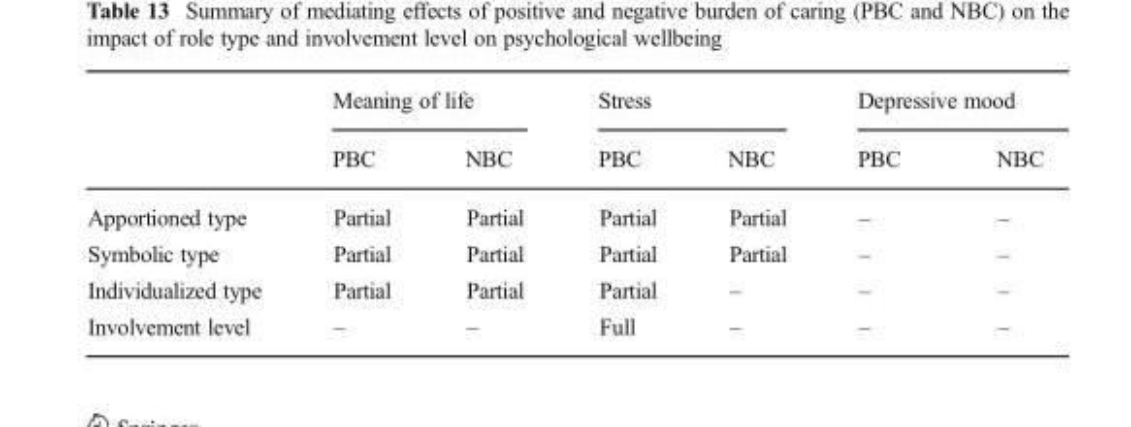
<table><thead><tr><td rowspan="2"></td><td colspan="2">Meaning of life</td><td colspan="2">Stress</td><td colspan="2">Depressive mood</td></tr><tr><td>PBC</td><td>NBC</td><td>PBC</td><td>NBC</td><td>PBC</td><td>NBC</td></tr></thead><tbody><tr><td>Apportioned type</td><td>Partial</td><td>Partial</td><td>Partial</td><td>Partial</td><td>–</td><td>–</td></tr><tr><td>Symbolic type</td><td>Partial</td><td>Partial</td><td>Partial</td><td>Partial</td><td>–</td><td>–</td></tr><tr><td>Individualized type</td><td>Partial</td><td>Partial</td><td>Partial</td><td>–</td><td>–</td><td>–</td></tr><tr><td>Involvement level</td><td>–</td><td>–</td><td>Full</td><td>–</td><td>–</td><td>–</td></tr></tbody></table>